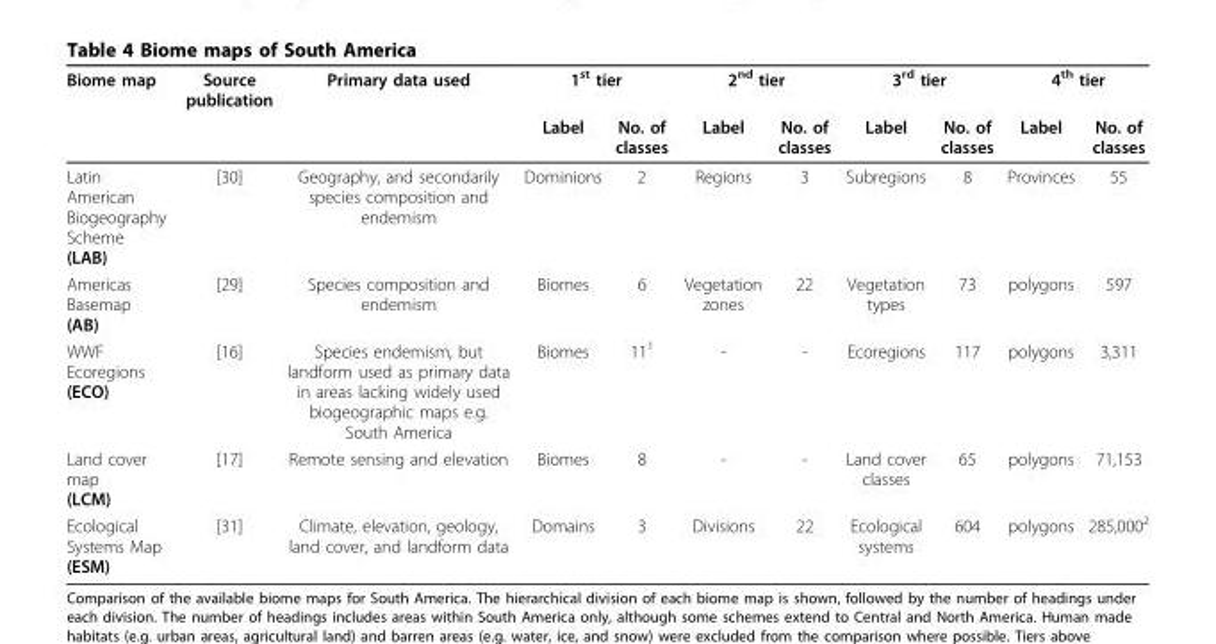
<table><thead><tr><td rowspan="2">Biome map</td><td rowspan="2">Source publication</td><td rowspan="2">Primary data used</td><td colspan="2">1<sup>st</sup> tier</td><td colspan="2">2<sup>nd</sup> tier</td><td colspan="2">3<sup>rd</sup> tier</td><td colspan="2">4<sup>th</sup> tier</td></tr><tr><td>Label</td><td>No. of classes</td><td>Label</td><td>No. of classes</td><td>Label</td><td>No. of classes</td><td>Label</td><td>No. of classes</td></tr></thead><tbody><tr><td>Latin American Biogeography Scheme (LAB)</td><td>[30]</td><td>Geography, and secondarily species composition and endemism</td><td>Dominions</td><td>2</td><td>Regions</td><td>3</td><td>Subregions</td><td>8</td><td>Provinces</td><td>55</td></tr><tr><td>Americas Basemap (AB)</td><td>[29]</td><td>Species composition and endemism</td><td>Biomes</td><td>6</td><td>Vegetation zones</td><td>22</td><td>Vegetation types</td><td>73</td><td>polygons</td><td>597</td></tr><tr><td>WWF Ecoregions (ECO)</td><td>[16]</td><td>Species endemism, but landform used as primary data in areas lacking widely used biogeographic maps e.g. South America</td><td>Biomes</td><td>11<sup>1</sup></td><td>-</td><td>-</td><td>Ecoregions</td><td>117</td><td>polygons</td><td>3,311</td></tr><tr><td>Land cover map (LCM)</td><td>[17]</td><td>Remote sensing and elevation</td><td>Biomes</td><td>8</td><td>-</td><td>-</td><td>Land cover classes</td><td>65</td><td>polygons</td><td>71,153</td></tr><tr><td>Ecological Systems Map (ESM)</td><td>[31]</td><td>Climate, elevation, geology, land cover, and landform data</td><td>Domains</td><td>3</td><td>Divisions</td><td>22</td><td>Ecological systems</td><td>604</td><td>polygons</td><td>285,000<sup>2</sup></td></tr></tbody></table>